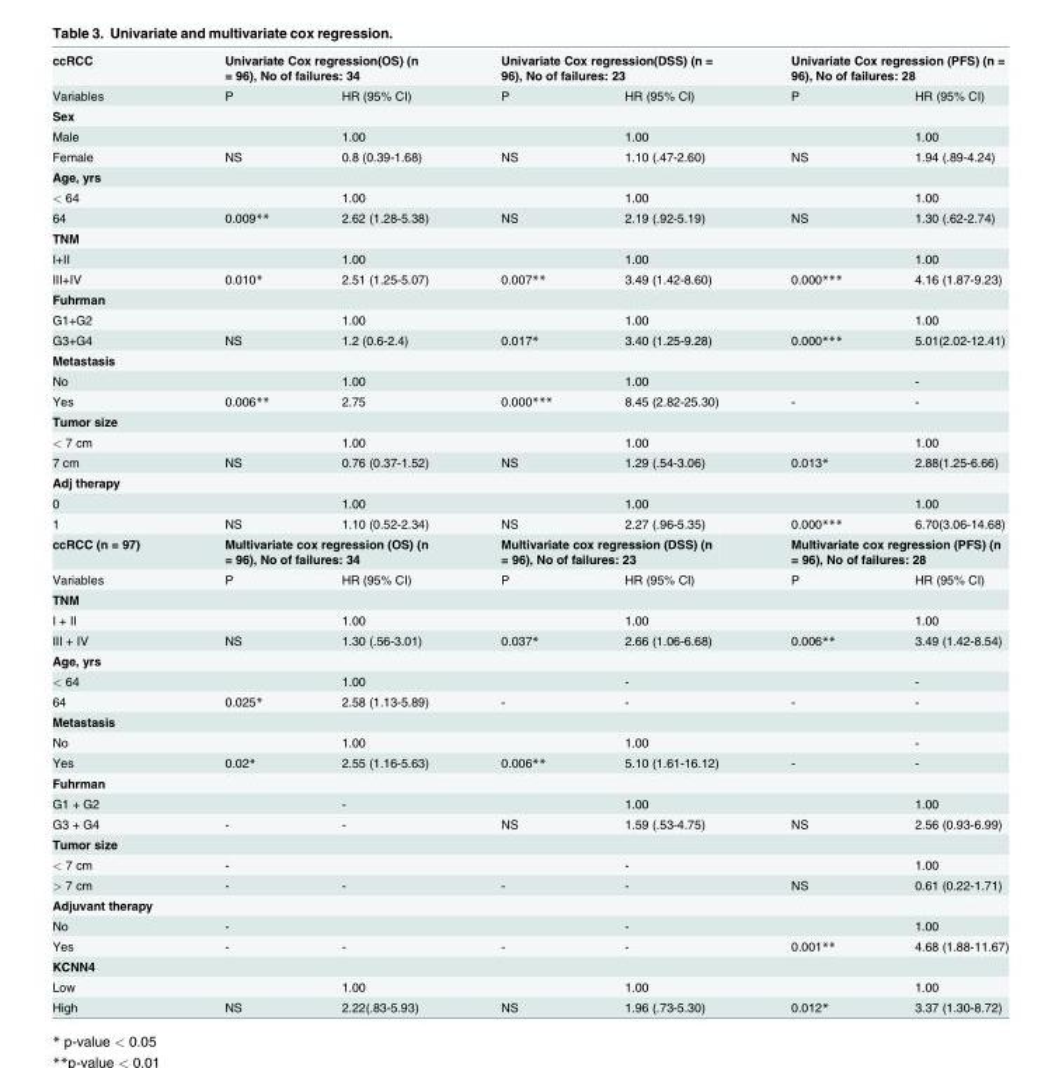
<table><tbody><tr><td>ccRCC</td><td colspan="2">Univariate Cox regression(OS) (n = 96), No of failures: 34</td><td colspan="2">Univariate Cox regression(DSS) (n = 96), No of failures: 23</td><td colspan="2">Univariate Cox regression (PFS) (n = 96), No of failures: 28</td></tr><tr><td>Variables</td><td>P</td><td>HR (95% CI)</td><td>P</td><td>HR (95% CI)</td><td>P</td><td>HR (95% CI)</td></tr><tr><td colspan="7">Sex</td></tr><tr><td>Male</td><td></td><td>1.00</td><td></td><td>1.00</td><td></td><td>1.00</td></tr><tr><td>Female</td><td>NS</td><td>0.8 (0.39-1.68)</td><td>NS</td><td>1.10 (.47-2.60)</td><td>NS</td><td>1.94 (.89-4.24)</td></tr><tr><td colspan="7">Age, yrs</td></tr><tr><td>&lt; 64</td><td></td><td>1.00</td><td></td><td>1.00</td><td></td><td>1.00</td></tr><tr><td>64</td><td>0.009**</td><td>2.62 (1.28-5.38)</td><td>NS</td><td>2.19 (.92-5.19)</td><td>NS</td><td>1.30 (.62-2.74)</td></tr><tr><td colspan="7">TNM</td></tr><tr><td>I+II</td><td></td><td>1.00</td><td></td><td>1.00</td><td></td><td>1.00</td></tr><tr><td>III+IV</td><td>0.010*</td><td>2.51 (1.25-5.07)</td><td>0.007**</td><td>3.49 (1.42-8.60)</td><td>0.000***</td><td>4.16 (1.87-9.23)</td></tr><tr><td colspan="7">Fuhrman</td></tr><tr><td>G1+G2</td><td></td><td>1.00</td><td></td><td>1.00</td><td></td><td>1.00</td></tr><tr><td>G3+G4</td><td>NS</td><td>1.2 (0.6-2.4)</td><td>0.017*</td><td>3.40 (1.25-9.28)</td><td>0.000***</td><td>5.01(2.02-12.41)</td></tr><tr><td colspan="7">Metastasis</td></tr><tr><td>No</td><td></td><td>1.00</td><td></td><td>1.00</td><td></td><td>-</td></tr><tr><td>Yes</td><td>0.006**</td><td>2.75</td><td>0.000***</td><td>8.45 (2.82-25.30)</td><td>-</td><td>-</td></tr><tr><td colspan="7">Tumor size</td></tr><tr><td>&lt; 7 cm</td><td></td><td>1.00</td><td></td><td>1.00</td><td></td><td>1.00</td></tr><tr><td>7 cm</td><td>NS</td><td>0.76 (0.37-1.52)</td><td>NS</td><td>1.29 (.54-3.06)</td><td>0.013*</td><td>2.88(1.25-6.66)</td></tr><tr><td colspan="7">Adj therapy</td></tr><tr><td>0</td><td></td><td>1.00</td><td></td><td>1.00</td><td></td><td>1.00</td></tr><tr><td>1</td><td>NS</td><td>1.10 (0.52-2.34)</td><td>NS</td><td>2.27 (.96-5.35)</td><td>0.000***</td><td>6.70(3.06-14.68)</td></tr><tr><td>ccRCC (n = 97)</td><td colspan="2">Multivariate cox regression (OS) (n = 96), No of failures: 34</td><td colspan="2">Multivariate cox regression (DSS) (n = 96), No of failures: 23</td><td colspan="2">Multivariate cox regression (PFS) (n = 96), No of failures: 28</td></tr><tr><td>Variables</td><td>P</td><td>HR (95% CI)</td><td>P</td><td>HR (95% CI)</td><td>P</td><td>HR (95% CI)</td></tr><tr><td colspan="7">TNM</td></tr><tr><td>I + II</td><td></td><td>1.00</td><td></td><td>1.00</td><td></td><td>1.00</td></tr><tr><td>III + IV</td><td>NS</td><td>1.30 (.56-3.01)</td><td>0.037*</td><td>2.66 (1.06-6.68)</td><td>0.006**</td><td>3.49 (1.42-8.54)</td></tr><tr><td colspan="7">Age, yrs</td></tr><tr><td>&lt; 64</td><td></td><td>1.00</td><td></td><td>-</td><td></td><td>-</td></tr><tr><td>64</td><td>0.025*</td><td>2.58 (1.13-5.89)</td><td>-</td><td>-</td><td>-</td><td>-</td></tr><tr><td colspan="7">Metastasis</td></tr><tr><td>No</td><td></td><td>1.00</td><td></td><td>1.00</td><td></td><td>-</td></tr><tr><td>Yes</td><td>0.02*</td><td>2.55 (1.16-5.63)</td><td>0.006**</td><td>5.10 (1.61-16.12)</td><td>-</td><td>-</td></tr><tr><td colspan="7">Fuhrman</td></tr><tr><td>G1 + G2</td><td></td><td>-</td><td></td><td>1.00</td><td></td><td>1.00</td></tr><tr><td>G3 + G4</td><td>-</td><td>-</td><td>NS</td><td>1.59 (.53-4.75)</td><td>NS</td><td>2.56 (0.93-6.99)</td></tr><tr><td colspan="7">Tumor size</td></tr><tr><td>&lt; 7 cm</td><td>-</td><td></td><td></td><td>-</td><td></td><td>1.00</td></tr><tr><td>&gt; 7 cm</td><td>-</td><td>-</td><td>-</td><td>-</td><td>NS</td><td>0.61 (0.22-1.71)</td></tr><tr><td colspan="7">Adjuvant therapy</td></tr><tr><td>No</td><td>-</td><td></td><td></td><td>-</td><td></td><td>1.00</td></tr><tr><td>Yes</td><td>-</td><td>-</td><td>-</td><td>-</td><td>0.001**</td><td>4.68 (1.88-11.67)</td></tr><tr><td colspan="7">KCNN4</td></tr><tr><td>Low</td><td></td><td>1.00</td><td></td><td>1.00</td><td></td><td>1.00</td></tr><tr><td>High</td><td>NS</td><td>2.22(.83-5.93)</td><td>NS</td><td>1.96 (.73-5.30)</td><td>0.012*</td><td>3.37 (1.30-8.72)</td></tr></tbody></table>